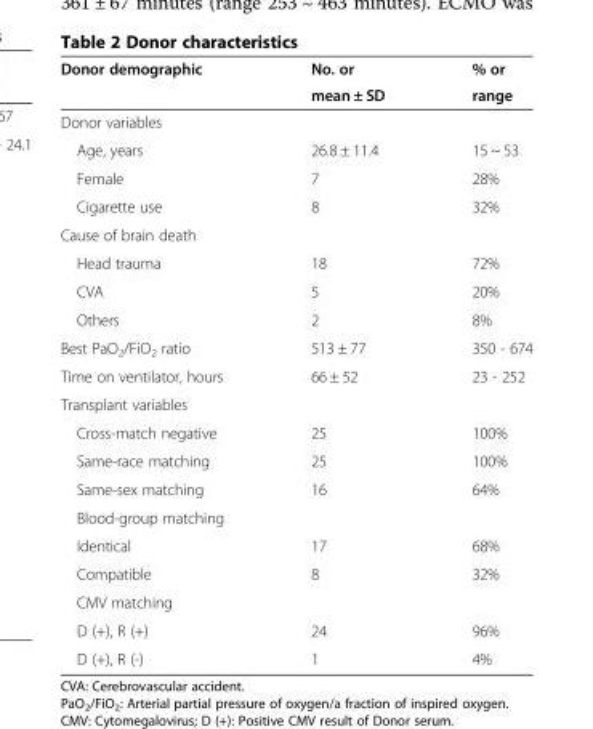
<table><thead><tr><td rowspan="2">Donor demographic</td><td rowspan="2">No. or mean ± SD</td><td rowspan="2">% or range</td></tr><tr></tr></thead><tbody><tr><td colspan="3">Donor variables</td></tr><tr><td>Age, years</td><td>26.8 ± 11.4</td><td>15 ~ 53</td></tr><tr><td>Female</td><td>7</td><td>28%</td></tr><tr><td>Cigarette use</td><td>8</td><td>32%</td></tr><tr><td colspan="3">Cause of brain death</td></tr><tr><td>Head trauma</td><td>18</td><td>72%</td></tr><tr><td>CVA</td><td>5</td><td>20%</td></tr><tr><td>Others</td><td>2</td><td>8%</td></tr><tr><td>Best PaO<sub>2</sub>/FiO<sub>2</sub> ratio</td><td>513 ± 77</td><td>350 - 674</td></tr><tr><td>Time on ventilator, hours</td><td>66 ± 52</td><td>23 - 252</td></tr><tr><td colspan="3">Transplant variables</td></tr><tr><td>Cross-match negative</td><td>25</td><td>100%</td></tr><tr><td>Same-race matching</td><td>25</td><td>100%</td></tr><tr><td>Same-sex matching</td><td>16</td><td>64%</td></tr><tr><td colspan="3">Blood-group matching</td></tr><tr><td>Identical</td><td>17</td><td>68%</td></tr><tr><td>Compatible</td><td>8</td><td>32%</td></tr><tr><td colspan="3">CMV matching</td></tr><tr><td>D (+), R (+)</td><td>24</td><td>96%</td></tr><tr><td>D (+), R (-)</td><td>1</td><td>4%</td></tr></tbody></table>